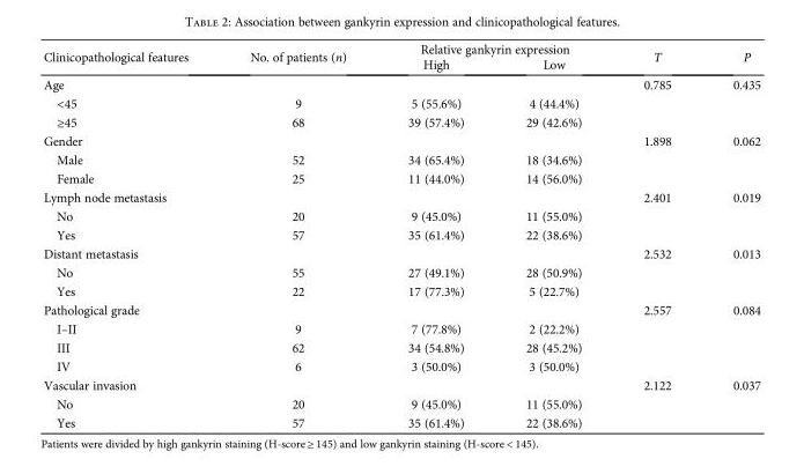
<table><thead><tr><td rowspan="2">Clinicopathological features</td><td rowspan="2">No. of patients (n)</td><td colspan="2">Relative gankyrin expression</td><td rowspan="2">T</td><td rowspan="2">P</td></tr><tr><td>High</td><td>Low</td></tr></thead><tbody><tr><td>Age</td><td></td><td></td><td></td><td>0.785</td><td>0.435</td></tr><tr><td>&lt;45</td><td>9</td><td>5 (55.6%)</td><td>4 (44.4%)</td><td></td><td></td></tr><tr><td>≥45</td><td>68</td><td>39 (57.4%)</td><td>29 (42.6%)</td><td></td><td></td></tr><tr><td>Gender</td><td></td><td></td><td></td><td>1.898</td><td>0.062</td></tr><tr><td>Male</td><td>52</td><td>34 (65.4%)</td><td>18 (34.6%)</td><td></td><td></td></tr><tr><td>Female</td><td>25</td><td>11 (44.0%)</td><td>14 (56.0%)</td><td></td><td></td></tr><tr><td>Lymph node metastasis</td><td></td><td></td><td></td><td>2.401</td><td>0.019</td></tr><tr><td>No</td><td>20</td><td>9 (45.0%)</td><td>11 (55.0%)</td><td></td><td></td></tr><tr><td>Yes</td><td>57</td><td>35 (61.4%)</td><td>22 (38.6%)</td><td></td><td></td></tr><tr><td>Distant metastasis</td><td></td><td></td><td></td><td>2.532</td><td>0.013</td></tr><tr><td>No</td><td>55</td><td>27 (49.1%)</td><td>28 (50.9%)</td><td></td><td></td></tr><tr><td>Yes</td><td>22</td><td>17 (77.3%)</td><td>5 (22.7%)</td><td></td><td></td></tr><tr><td>Pathological grade</td><td></td><td></td><td></td><td>2.557</td><td>0.084</td></tr><tr><td>I–II</td><td>9</td><td>7 (77.8%)</td><td>2 (22.2%)</td><td></td><td></td></tr><tr><td>III</td><td>62</td><td>34 (54.8%)</td><td>28 (45.2%)</td><td></td><td></td></tr><tr><td>IV</td><td>6</td><td>3 (50.0%)</td><td>3 (50.0%)</td><td></td><td></td></tr><tr><td>Vascular invasion</td><td></td><td></td><td></td><td>2.122</td><td>0.037</td></tr><tr><td>No</td><td>20</td><td>9 (45.0%)</td><td>11 (55.0%)</td><td></td><td></td></tr><tr><td>Yes</td><td>57</td><td>35 (61.4%)</td><td>22 (38.6%)</td><td></td><td></td></tr></tbody></table>